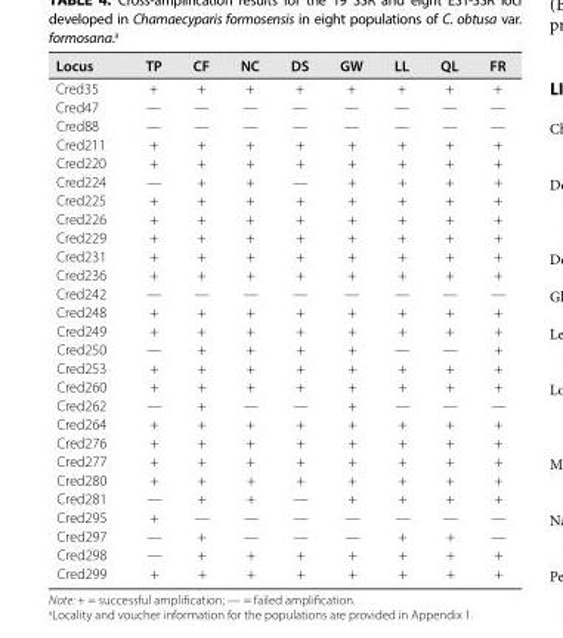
<table><thead><tr><td>Locus</td><td>TP</td><td>CF</td><td>NC</td><td>DS</td><td>GW</td><td>LL</td><td>QL</td><td>FR</td></tr></thead><tbody><tr><td>Cred35</td><td>+</td><td>+</td><td>+</td><td>+</td><td>+</td><td>+</td><td>+</td><td>+</td></tr><tr><td>Cred47</td><td>—</td><td>—</td><td>—</td><td>—</td><td>—</td><td>—</td><td>—</td><td>—</td></tr><tr><td>Cred88</td><td>—</td><td>—</td><td>—</td><td>—</td><td>—</td><td>—</td><td>—</td><td>—</td></tr><tr><td>Cred211</td><td>+</td><td>+</td><td>+</td><td>+</td><td>+</td><td>+</td><td>+</td><td>+</td></tr><tr><td>Cred220</td><td>+</td><td>+</td><td>+</td><td>+</td><td>+</td><td>+</td><td>+</td><td>+</td></tr><tr><td>Cred224</td><td>—</td><td>+</td><td>+</td><td>—</td><td>+</td><td>+</td><td>+</td><td>+</td></tr><tr><td>Cred225</td><td>+</td><td>+</td><td>+</td><td>+</td><td>+</td><td>+</td><td>+</td><td>+</td></tr><tr><td>Cred226</td><td>+</td><td>+</td><td>+</td><td>+</td><td>+</td><td>+</td><td>+</td><td>+</td></tr><tr><td>Cred229</td><td>+</td><td>+</td><td>+</td><td>+</td><td>+</td><td>+</td><td>+</td><td>+</td></tr><tr><td>Cred231</td><td>+</td><td>+</td><td>+</td><td>+</td><td>+</td><td>+</td><td>+</td><td>+</td></tr><tr><td>Cred236</td><td>+</td><td>+</td><td>+</td><td>+</td><td>+</td><td>+</td><td>+</td><td>+</td></tr><tr><td>Cred242</td><td>—</td><td>—</td><td>—</td><td>—</td><td>—</td><td>—</td><td>—</td><td>—</td></tr><tr><td>Cred248</td><td>+</td><td>+</td><td>+</td><td>+</td><td>+</td><td>+</td><td>+</td><td>+</td></tr><tr><td>Cred249</td><td>+</td><td>+</td><td>+</td><td>+</td><td>+</td><td>+</td><td>+</td><td>+</td></tr><tr><td>Cred250</td><td>—</td><td>+</td><td>+</td><td>+</td><td>+</td><td>—</td><td>—</td><td>+</td></tr><tr><td>Cred253</td><td>+</td><td>+</td><td>+</td><td>+</td><td>+</td><td>+</td><td>+</td><td>+</td></tr><tr><td>Cred260</td><td>+</td><td>+</td><td>+</td><td>+</td><td>+</td><td>+</td><td>+</td><td>+</td></tr><tr><td>Cred262</td><td>—</td><td>+</td><td>—</td><td>—</td><td>+</td><td>—</td><td>—</td><td>—</td></tr><tr><td>Cred264</td><td>+</td><td>+</td><td>+</td><td>+</td><td>+</td><td>+</td><td>+</td><td>+</td></tr><tr><td>Cred276</td><td>+</td><td>+</td><td>+</td><td>+</td><td>+</td><td>+</td><td>+</td><td>+</td></tr><tr><td>Cred277</td><td>+</td><td>+</td><td>+</td><td>+</td><td>+</td><td>+</td><td>+</td><td>+</td></tr><tr><td>Cred280</td><td>+</td><td>+</td><td>+</td><td>+</td><td>+</td><td>+</td><td>+</td><td>+</td></tr><tr><td>Cred281</td><td>—</td><td>+</td><td>+</td><td>—</td><td>+</td><td>+</td><td>+</td><td>+</td></tr><tr><td>Cred295</td><td>+</td><td>—</td><td>—</td><td>—</td><td>—</td><td>—</td><td>—</td><td>—</td></tr><tr><td>Cred297</td><td>—</td><td>+</td><td>—</td><td>—</td><td>—</td><td>+</td><td>+</td><td>—</td></tr><tr><td>Cred298</td><td>—</td><td>+</td><td>+</td><td>+</td><td>+</td><td>+</td><td>+</td><td>+</td></tr><tr><td>Cred299</td><td>+</td><td>+</td><td>+</td><td>+</td><td>+</td><td>+</td><td>+</td><td>+</td></tr></tbody></table>